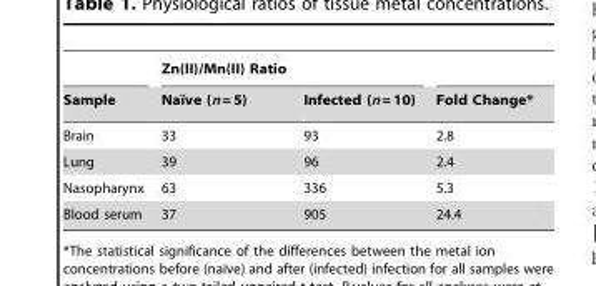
<table><thead><tr><td rowspan="2">Sample</td><td colspan="2">Zn(II)/Mn(II) Ratio</td><td rowspan="2">Fold Change*</td></tr><tr><td>Naı¨ve (n = 5)</td><td>Infected (n = 10)</td></tr></thead><tbody><tr><td>Brain</td><td>33</td><td>93</td><td>2.8</td></tr><tr><td>Lung</td><td>39</td><td>96</td><td>2.4</td></tr><tr><td>Nasopharynx</td><td>63</td><td>336</td><td>5.3</td></tr><tr><td>Blood serum</td><td>37</td><td>905</td><td>24.4</td></tr></tbody></table>